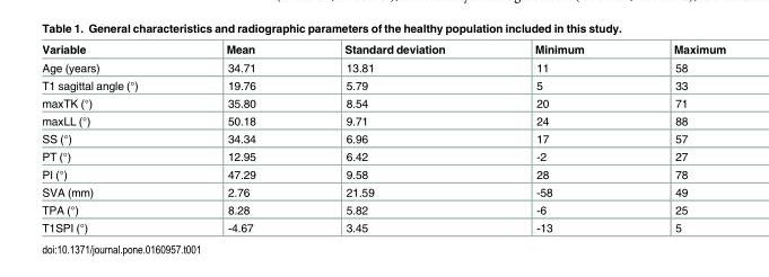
<table><thead><tr><td>Variable</td><td>Mean</td><td>Standard deviation</td><td>Minimum</td><td>Maximum</td></tr></thead><tbody><tr><td>Age (years)</td><td>34.71</td><td>13.81</td><td>11</td><td>58</td></tr><tr><td>T1 sagittal angle (°)</td><td>19.76</td><td>5.79</td><td>5</td><td>33</td></tr><tr><td>maxTK (°)</td><td>35.80</td><td>8.54</td><td>20</td><td>71</td></tr><tr><td>maxLL (°)</td><td>50.18</td><td>9.71</td><td>24</td><td>88</td></tr><tr><td>SS (°)</td><td>34.34</td><td>6.96</td><td>17</td><td>57</td></tr><tr><td>PT (°)</td><td>12.95</td><td>6.42</td><td>-2</td><td>27</td></tr><tr><td>PI (°)</td><td>47.29</td><td>9.58</td><td>28</td><td>78</td></tr><tr><td>SVA (mm)</td><td>2.76</td><td>21.59</td><td>-58</td><td>49</td></tr><tr><td>TPA (°)</td><td>8.28</td><td>5.82</td><td>-6</td><td>25</td></tr><tr><td>T1SPI (°)</td><td>-4.67</td><td>3.45</td><td>-13</td><td>5</td></tr></tbody></table>